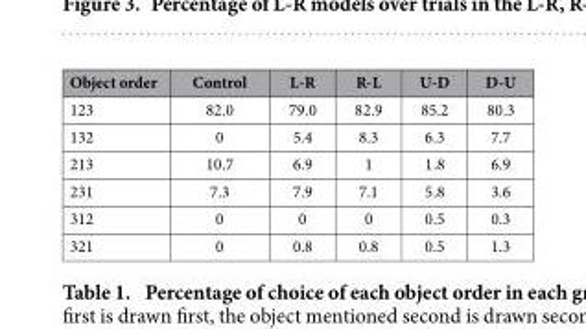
<table><thead><tr><td>Object order</td><td>Control</td><td>L-R</td><td>R-L</td><td>U-D</td><td>D-U</td></tr></thead><tbody><tr><td>123</td><td>82.0</td><td>79.0</td><td>82.9</td><td>85.2</td><td>80.3</td></tr><tr><td>132</td><td>0</td><td>5.4</td><td>8.3</td><td>6.3</td><td>7.7</td></tr><tr><td>213</td><td>10.7</td><td>6.9</td><td>1</td><td>1.8</td><td>6.9</td></tr><tr><td>231</td><td>7.3</td><td>7.9</td><td>7.1</td><td>5.8</td><td>3.6</td></tr><tr><td>312</td><td>0</td><td>0</td><td>0</td><td>0.5</td><td>0.3</td></tr><tr><td>321</td><td>0</td><td>0.8</td><td>0.8</td><td>0.5</td><td>1.3</td></tr></tbody></table>